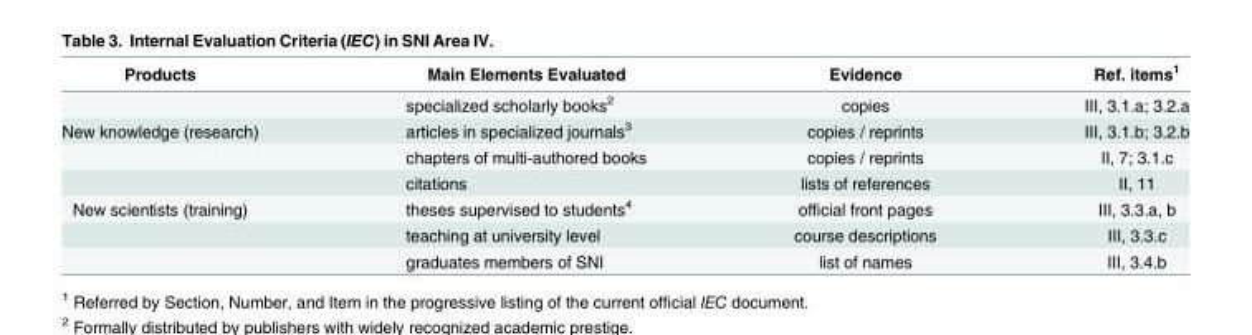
<table><thead><tr><td>Products</td><td>Main Elements Evaluated</td><td>Evidence</td><td>Ref. items<sup>1</sup></td></tr></thead><tbody><tr><td></td><td>specialized scholarly books<sup>2</sup></td><td>copies</td><td>III, 3.1.a; 3.2.a</td></tr><tr><td rowspan="3">New knowledge (research)</td><td>articles in specialized journals<sup>3</sup></td><td>copies / reprints</td><td>III, 3.1.b; 3.2.b</td></tr><tr><td>chapters of multi-authored books</td><td>copies / reprints</td><td>II, 7; 3.1.c</td></tr><tr><td>citations</td><td>lists of references</td><td>II, 11</td></tr><tr><td rowspan="3">New scientists (training)</td><td>theses supervised to students<sup>4</sup></td><td>official front pages</td><td>III, 3.3.a, b</td></tr><tr><td>teaching at university level</td><td>course descriptions</td><td>III, 3.3.c</td></tr><tr><td>graduates members of SNI</td><td>list of names</td><td>III, 3.4.b</td></tr></tbody></table>